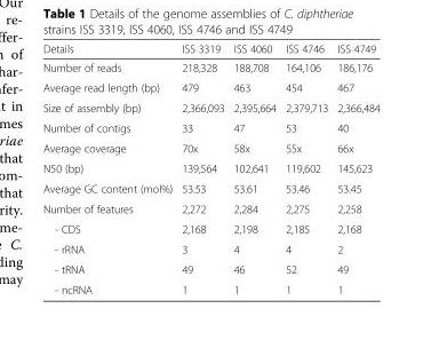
<table><thead><tr><td>Details</td><td>ISS 3319</td><td>ISS 4060</td><td>ISS 4746</td><td>ISS 4749</td></tr></thead><tbody><tr><td>Number of reads</td><td>218,328</td><td>188,708</td><td>164,106</td><td>186,176</td></tr><tr><td>Average read length (bp)</td><td>479</td><td>463</td><td>454</td><td>467</td></tr><tr><td>Size of assembly (bp)</td><td>2,366,093</td><td>2,395,664</td><td>2,379,713</td><td>2,366,484</td></tr><tr><td>Number of contigs</td><td>33</td><td>47</td><td>53</td><td>40</td></tr><tr><td>Average coverage</td><td>70x</td><td>58x</td><td>55x</td><td>66x</td></tr><tr><td>N50 (bp)</td><td>139,564</td><td>102,641</td><td>119,602</td><td>145,623</td></tr><tr><td>Average GC content (mol%)</td><td>53.53</td><td>53.61</td><td>53.46</td><td>53.45</td></tr><tr><td>Number of features</td><td>2,272</td><td>2,284</td><td>2,275</td><td>2,258</td></tr><tr><td>- CDS</td><td>2,168</td><td>2,198</td><td>2,185</td><td>2,168</td></tr><tr><td>- rRNA</td><td>3</td><td>4</td><td>4</td><td>2</td></tr><tr><td>- tRNA</td><td>49</td><td>46</td><td>52</td><td>49</td></tr><tr><td>- ncRNA</td><td>1</td><td>1</td><td>1</td><td>1</td></tr></tbody></table>